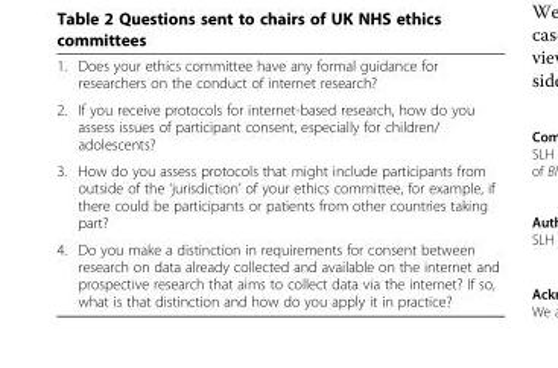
<table><tbody><tr><td>1.</td><td>Does your ethics committee have any formal guidance for researchers on the conduct of internet research?</td></tr><tr><td>2.</td><td>If you receive protocols for internet-based research, how do you assess issues of participant consent, especially for children/ adolescents?</td></tr><tr><td>3.</td><td>How do you assess protocols that might include participants from outside of the ‘jurisdiction’ of your ethics committee, for example, if there could be participants or patients from other countries taking part?</td></tr><tr><td>4.</td><td>Do you make a distinction in requirements for consent between research on data already collected and available on the internet and prospective research that aims to collect data via the internet? If so, what is that distinction and how do you apply it in practice?</td></tr></tbody></table>